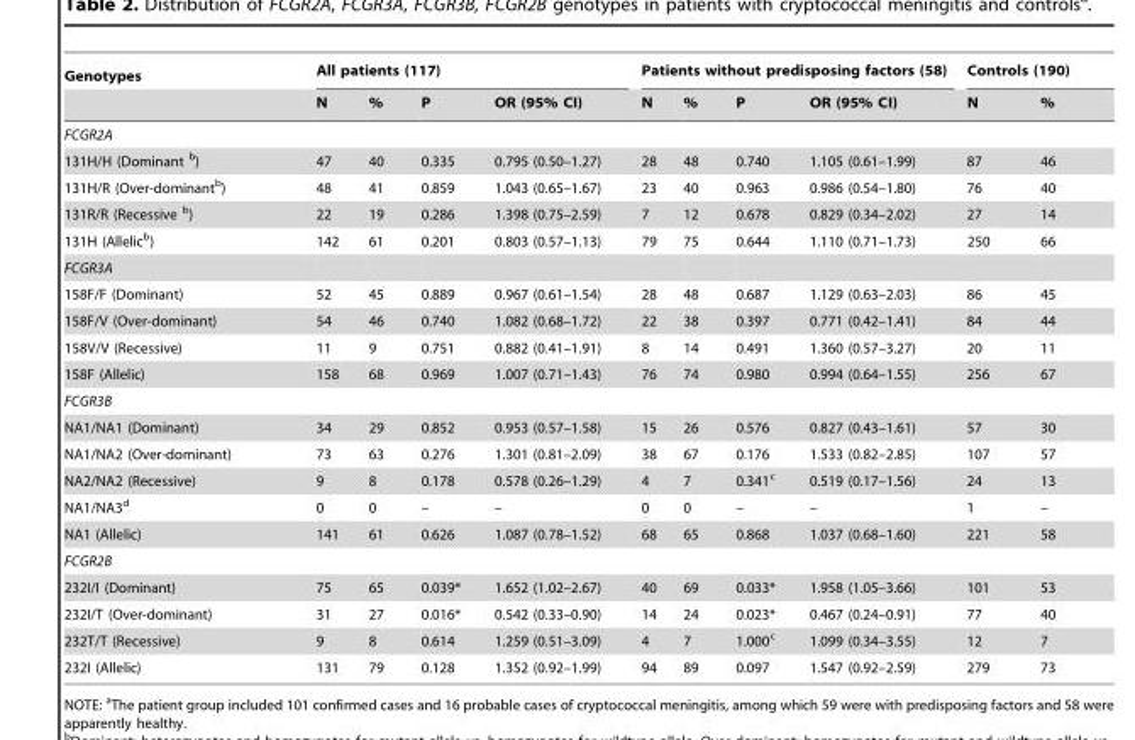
<table><thead><tr><td rowspan="2">Genotypes</td><td colspan="4">All patients (117)</td><td colspan="4">Patients without predisposing factors (58)</td><td colspan="2">Controls (190)</td></tr><tr><td>N</td><td>%</td><td>P</td><td>OR (95% CI)</td><td>N</td><td>%</td><td>P</td><td>OR (95% CI)</td><td>N</td><td>%</td></tr></thead><tbody><tr><td colspan="11">FCGR2A</td></tr><tr><td>131H/H (Dominant b)</td><td>47</td><td>40</td><td>0.335</td><td>0.795 (0.50–1.27)</td><td>28</td><td>48</td><td>0.740</td><td>1.105 (0.61–1.99)</td><td>87</td><td>46</td></tr><tr><td>131H/R (Over-dominant<sup>b</sup>)</td><td>48</td><td>41</td><td>0.859</td><td>1.043 (0.65–1.67)</td><td>23</td><td>40</td><td>0.963</td><td>0.986 (0.54–1.80)</td><td>76</td><td>40</td></tr><tr><td>131R/R (Recessive b)</td><td>22</td><td>19</td><td>0.286</td><td>1.398 (0.75–2.59)</td><td>7</td><td>12</td><td>0.678</td><td>0.829 (0.34–2.02)</td><td>27</td><td>14</td></tr><tr><td>131H (Allelic<sup>b</sup>)</td><td>142</td><td>61</td><td>0.201</td><td>0.803 (0.57–1.13)</td><td>79</td><td>75</td><td>0.644</td><td>1.110 (0.71–1.73)</td><td>250</td><td>66</td></tr><tr><td colspan="11">FCGR3A</td></tr><tr><td>158F/F (Dominant)</td><td>52</td><td>45</td><td>0.889</td><td>0.967 (0.61–1.54)</td><td>28</td><td>48</td><td>0.687</td><td>1.129 (0.63–2.03)</td><td>86</td><td>45</td></tr><tr><td>158F/V (Over-dominant)</td><td>54</td><td>46</td><td>0.740</td><td>1.082 (0.68–1.72)</td><td>22</td><td>38</td><td>0.397</td><td>0.771 (0.42–1.41)</td><td>84</td><td>44</td></tr><tr><td>158V/V (Recessive)</td><td>11</td><td>9</td><td>0.751</td><td>0.882 (0.41–1.91)</td><td>8</td><td>14</td><td>0.491</td><td>1.360 (0.57–3.27)</td><td>20</td><td>11</td></tr><tr><td>158F (Allelic)</td><td>158</td><td>68</td><td>0.969</td><td>1.007 (0.71–1.43)</td><td>76</td><td>74</td><td>0.980</td><td>0.994 (0.64–1.55)</td><td>256</td><td>67</td></tr><tr><td colspan="11">FCGR3B</td></tr><tr><td>NA1/NA1 (Dominant)</td><td>34</td><td>29</td><td>0.852</td><td>0.953 (0.57–1.58)</td><td>15</td><td>26</td><td>0.576</td><td>0.827 (0.43–1.61)</td><td>57</td><td>30</td></tr><tr><td>NA1/NA2 (Over-dominant)</td><td>73</td><td>63</td><td>0.276</td><td>1.301 (0.81–2.09)</td><td>38</td><td>67</td><td>0.176</td><td>1.533 (0.82–2.85)</td><td>107</td><td>57</td></tr><tr><td>NA2/NA2 (Recessive)</td><td>9</td><td>8</td><td>0.178</td><td>0.578 (0.26–1.29)</td><td>4</td><td>7</td><td>0.341<sup>c</sup></td><td>0.519 (0.17–1.56)</td><td>24</td><td>13</td></tr><tr><td>NA1/NA3<sup>d</sup></td><td>0</td><td>0</td><td>–</td><td>–</td><td>0</td><td>0</td><td>–</td><td>–</td><td>1</td><td>–</td></tr><tr><td>NA1 (Allelic)</td><td>141</td><td>61</td><td>0.626</td><td>1.087 (0.78–1.52)</td><td>68</td><td>65</td><td>0.868</td><td>1.037 (0.68–1.60)</td><td>221</td><td>58</td></tr><tr><td colspan="11">FCGR2B</td></tr><tr><td>232I/I (Dominant)</td><td>75</td><td>65</td><td>0.039*</td><td>1.652 (1.02–2.67)</td><td>40</td><td>69</td><td>0.033*</td><td>1.958 (1.05–3.66)</td><td>101</td><td>53</td></tr><tr><td>232I/T (Over-dominant)</td><td>31</td><td>27</td><td>0.016*</td><td>0.542 (0.33–0.90)</td><td>14</td><td>24</td><td>0.023*</td><td>0.467 (0.24–0.91)</td><td>77</td><td>40</td></tr><tr><td>232T/T (Recessive)</td><td>9</td><td>8</td><td>0.614</td><td>1.259 (0.51–3.09)</td><td>4</td><td>7</td><td>1.000<sup>c</sup></td><td>1.099 (0.34–3.55)</td><td>12</td><td>7</td></tr><tr><td>232I (Allelic)</td><td>131</td><td>79</td><td>0.128</td><td>1.352 (0.92–1.99)</td><td>94</td><td>89</td><td>0.097</td><td>1.547 (0.92–2.59)</td><td>279</td><td>73</td></tr></tbody></table>